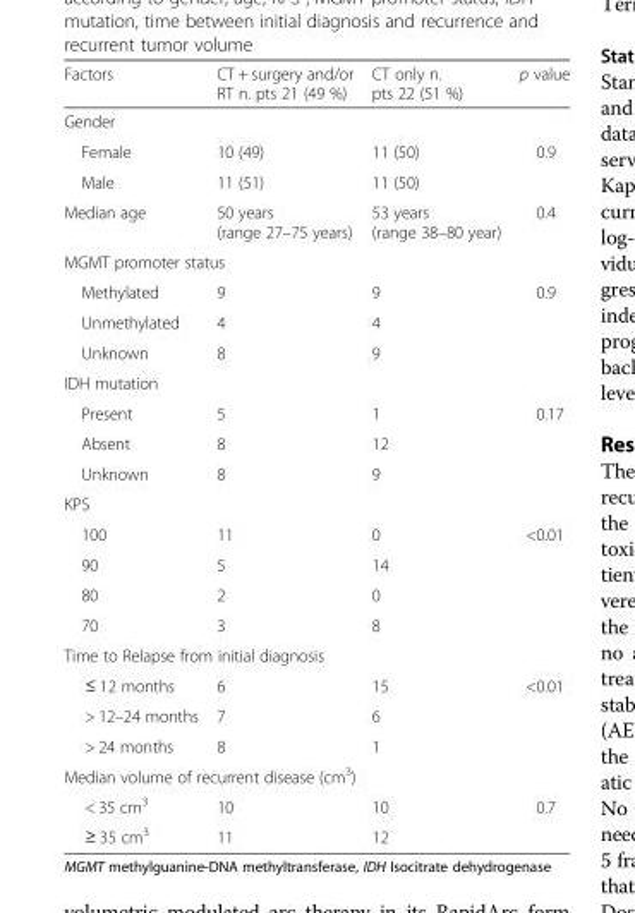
<table><thead><tr><td>Factors</td><td>CT + surgery and/or RT n. pts 21 (49 %)</td><td>CT only n. pts 22 (51 %)</td><td>p value</td></tr></thead><tbody><tr><td colspan="4">Gender</td></tr><tr><td>Female</td><td>10 (49)</td><td>11 (50)</td><td rowspan="2">0.9</td></tr><tr><td>Male</td><td>11 (51)</td><td>11 (50)</td></tr><tr><td>Median age</td><td>50 years (range 27–75 years)</td><td>53 years (range 38–80 year)</td><td>0.4</td></tr><tr><td colspan="4">MGMT promoter status</td></tr><tr><td>Methylated</td><td>9</td><td>9</td><td rowspan="3">0.9</td></tr><tr><td>Unmethylated</td><td>4</td><td>4</td></tr><tr><td>Unknown</td><td>8</td><td>9</td></tr><tr><td colspan="4">IDH mutation</td></tr><tr><td>Present</td><td>5</td><td>1</td><td rowspan="3">0.17</td></tr><tr><td>Absent</td><td>8</td><td>12</td></tr><tr><td>Unknown</td><td>8</td><td>9</td></tr><tr><td colspan="4">KPS</td></tr><tr><td>100</td><td>11</td><td>0</td><td rowspan="4">&lt;0.01</td></tr><tr><td>90</td><td>5</td><td>14</td></tr><tr><td>80</td><td>2</td><td>0</td></tr><tr><td>70</td><td>3</td><td>8</td></tr><tr><td colspan="4">Time to Relapse from initial diagnosis</td></tr><tr><td>≤ 12 months</td><td>6</td><td>15</td><td rowspan="3">&lt;0.01</td></tr><tr><td>&gt; 12–24 months</td><td>7</td><td>6</td></tr><tr><td>&gt; 24 months</td><td>8</td><td>1</td></tr><tr><td colspan="4">Median volume of recurrent disease (cm<sup>3</sup>)</td></tr><tr><td>&lt; 35 cm<sup>3</sup></td><td>10</td><td>10</td><td rowspan="2">0.7</td></tr><tr><td>≥ 35 cm<sup>3</sup></td><td>11</td><td>12</td></tr></tbody></table>